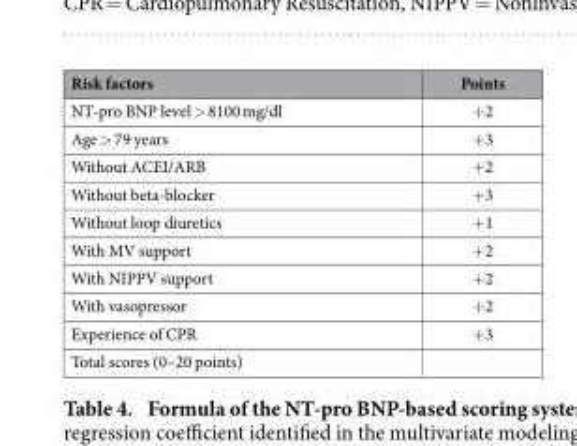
<table><thead><tr><td>Risk factors</td><td>Points</td></tr></thead><tbody><tr><td>NT-pro BNP level &gt; 8100 mg/dl</td><td>+ 2</td></tr><tr><td>Age &gt; 79 years</td><td>+ 3</td></tr><tr><td>Without ACEI/ARB</td><td>+ 2</td></tr><tr><td>Without beta-blocker</td><td>+ 3</td></tr><tr><td>Without loop diuretics</td><td>+ 1</td></tr><tr><td>With MV support</td><td>+ 2</td></tr><tr><td>With NIPPV support</td><td>+ 2</td></tr><tr><td>With vasopressor</td><td>+ 2</td></tr><tr><td>Experience of CPR</td><td>+ 3</td></tr><tr><td>Total scores (0–20 points)</td><td></td></tr></tbody></table>